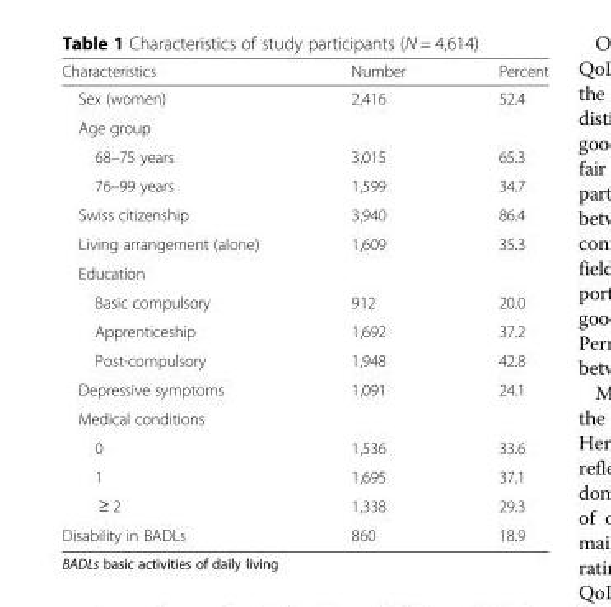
<table><thead><tr><td>Characteristics</td><td>Number</td><td>Percent</td></tr></thead><tbody><tr><td>Sex (women)</td><td>2,416</td><td>52.4</td></tr><tr><td colspan="3">Age group</td></tr><tr><td>68–75 years</td><td>3,015</td><td>65.3</td></tr><tr><td>76–99 years</td><td>1,599</td><td>34.7</td></tr><tr><td>Swiss citizenship</td><td>3,940</td><td>86.4</td></tr><tr><td>Living arrangement (alone)</td><td>1,609</td><td>35.3</td></tr><tr><td colspan="3">Education</td></tr><tr><td>Basic compulsory</td><td>912</td><td>20.0</td></tr><tr><td>Apprenticeship</td><td>1,692</td><td>37.2</td></tr><tr><td>Post-compulsory</td><td>1,948</td><td>42.8</td></tr><tr><td>Depressive symptoms</td><td>1,091</td><td>24.1</td></tr><tr><td colspan="3">Medical conditions</td></tr><tr><td>0</td><td>1,536</td><td>33.6</td></tr><tr><td>1</td><td>1,695</td><td>37.1</td></tr><tr><td>≥ 2</td><td>1,338</td><td>29.3</td></tr><tr><td>Disability in BADLs</td><td>860</td><td>18.9</td></tr></tbody></table>